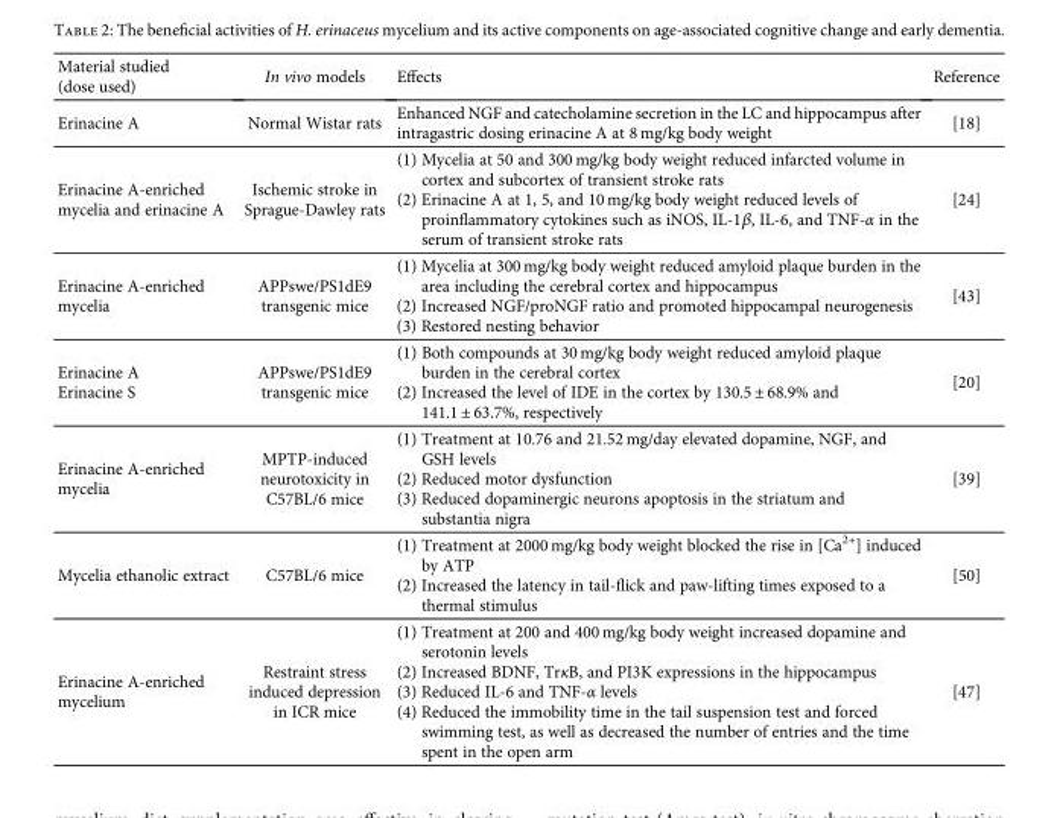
<table><thead><tr><td>Material studied (dose used)</td><td>In vivo models</td><td>Effects</td><td>Reference</td></tr></thead><tbody><tr><td>Erinacine A</td><td>Normal Wistar rats</td><td>Enhanced NGF and catecholamine secretion in the LC and hippocampus after intragastric dosing erinacine A at 8 mg/kg body weight</td><td>[18]</td></tr><tr><td>Erinacine A-enriched mycelia and erinacine A</td><td>Ischemic stroke in Sprague-Dawley rats</td><td>(1) Mycelia at 50 and 300 mg/kg body weight reduced infarcted volume in cortex and subcortex of transient stroke rats (2) Erinacine A at 1, 5, and 10 mg/kg body weight reduced levels of proinflammatory cytokines such as iNOS, IL-1β, IL-6, and TNF-α in the serum of transient stroke rats</td><td>[24]</td></tr><tr><td>Erinacine A-enriched mycelia</td><td>APPswe/PS1dE9 transgenic mice</td><td>(1) Mycelia at 300 mg/kg body weight reduced amyloid plaque burden in the area including the cerebral cortex and hippocampus (2) Increased NGF/proNGF ratio and promoted hippocampal neurogenesis (3) Restored nesting behavior</td><td>[43]</td></tr><tr><td>Erinacine A Erinacine S</td><td>APPswe/PS1dE9 transgenic mice</td><td>(1) Both compounds at 30 mg/kg body weight reduced amyloid plaque burden in the cerebral cortex (2) Increased the level of IDE in the cortex by 130.5 ± 68.9% and 141.1 ± 63.7%, respectively</td><td>[20]</td></tr><tr><td>Erinacine A-enriched mycelia</td><td>MPTP-induced neurotoxicity in C57BL/6 mice</td><td>(1) Treatment at 10.76 and 21.52 mg/day elevated dopamine, NGF, and GSH levels (2) Reduced motor dysfunction (3) Reduced dopaminergic neurons apoptosis in the striatum and substantia nigra</td><td>[39]</td></tr><tr><td>Mycelia ethanolic extract</td><td>C57BL/6 mice</td><td>(1) Treatment at 2000 mg/kg body weight blocked the rise in [Ca<sup>2+</sup>] induced by ATP (2) Increased the latency in tail-flick and paw-lifting times exposed to a thermal stimulus</td><td>[50]</td></tr><tr><td>Erinacine A-enriched mycelium</td><td>Restraint stress induced depression in ICR mice</td><td>(1) Treatment at 200 and 400 mg/kg body weight increased dopamine and serotonin levels (2) Increased BDNF, TrκB, and PI3K expressions in the hippocampus (3) Reduced IL-6 and TNF-α levels (4) Reduced the immobility time in the tail suspension test and forced swimming test, as well as decreased the number of entries and the time spent in the open arm</td><td>[47]</td></tr></tbody></table>